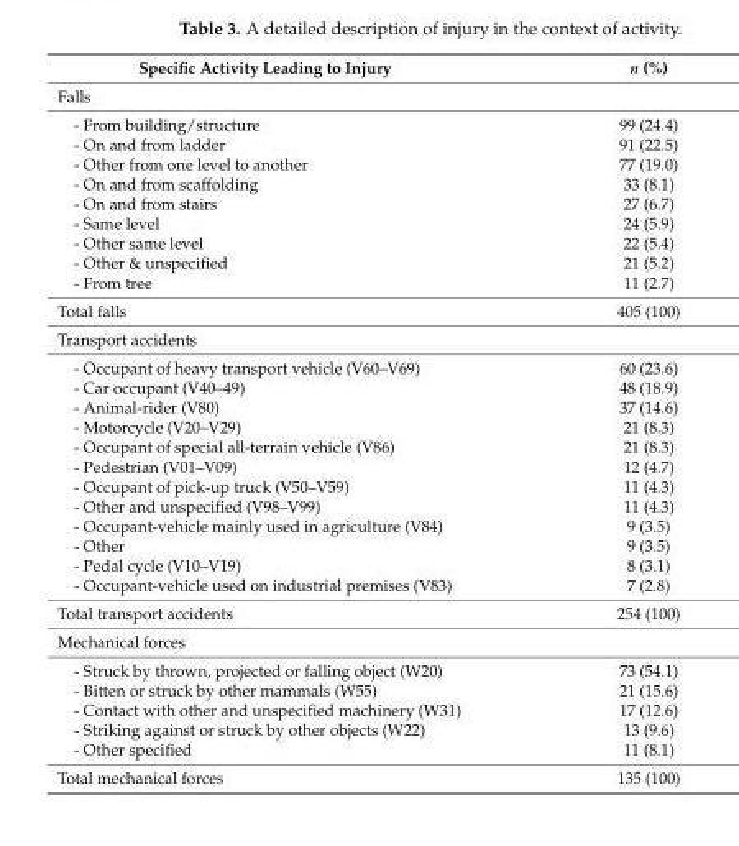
<table><thead><tr><td>Specific Activity Leading to Injury</td><td>n (%)</td></tr></thead><tbody><tr><td colspan="2">Falls</td></tr><tr><td>- From building/structure</td><td>99 (24.4)</td></tr><tr><td>- On and from ladder</td><td>91 (22.5)</td></tr><tr><td>- Other from one level to another</td><td>77 (19.0)</td></tr><tr><td>- On and from scaffolding</td><td>33 (8.1)</td></tr><tr><td>- On and from stairs</td><td>27 (6.7)</td></tr><tr><td>- Same level</td><td>24 (5.9)</td></tr><tr><td>- Other same level</td><td>22 (5.4)</td></tr><tr><td>- Other &amp; unspecified</td><td>21 (5.2)</td></tr><tr><td>- From tree</td><td>11 (2.7)</td></tr><tr><td>Total falls</td><td>405 (100)</td></tr><tr><td colspan="2">Transport accidents</td></tr><tr><td>- Occupant of heavy transport vehicle (V60–V69)</td><td>60 (23.6)</td></tr><tr><td>- Car occupant (V40–49)</td><td>48 (18.9)</td></tr><tr><td>- Animal-rider (V80)</td><td>37 (14.6)</td></tr><tr><td>- Motorcycle (V20–V29)</td><td>21 (8.3)</td></tr><tr><td>- Occupant of special all-terrain vehicle (V86)</td><td>21 (8.3)</td></tr><tr><td>- Pedestrian (V01–V09)</td><td>12 (4.7)</td></tr><tr><td>- Occupant of pick-up truck (V50–V59)</td><td>11 (4.3)</td></tr><tr><td>- Other and unspecified (V98–V99)</td><td>11 (4.3)</td></tr><tr><td>- Occupant-vehicle mainly used in agriculture (V84)</td><td>9 (3.5)</td></tr><tr><td>- Other</td><td>9 (3.5)</td></tr><tr><td>- Pedal cycle (V10–V19)</td><td>8 (3.1)</td></tr><tr><td>- Occupant-vehicle used on industrial premises (V83)</td><td>7 (2.8)</td></tr><tr><td>Total transport accidents</td><td>254 (100)</td></tr><tr><td colspan="2">Mechanical forces</td></tr><tr><td>- Struck by thrown, projected or falling object (W20)</td><td>73 (54.1)</td></tr><tr><td>- Bitten or struck by other mammals (W55)</td><td>21 (15.6)</td></tr><tr><td>- Contact with other and unspecified machinery (W31)</td><td>17 (12.6)</td></tr><tr><td>- Striking against or struck by other objects (W22)</td><td>13 (9.6)</td></tr><tr><td>- Other specified</td><td>11 (8.1)</td></tr><tr><td>Total mechanical forces</td><td>135 (100)</td></tr></tbody></table>